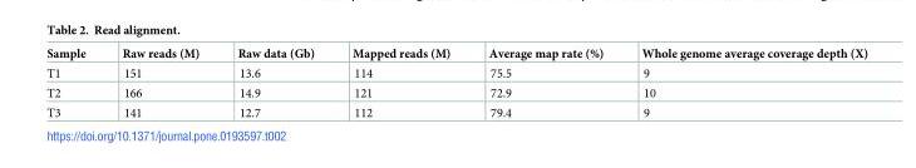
<table><thead><tr><td>Sample</td><td>Raw reads (M)</td><td>Raw data (Gb)</td><td>Mapped reads (M)</td><td>Average map rate (%)</td><td>Whole genome average coverage depth (X)</td></tr></thead><tbody><tr><td>T1</td><td>151</td><td>13.6</td><td>114</td><td>75.5</td><td>9</td></tr><tr><td>T2</td><td>166</td><td>14.9</td><td>121</td><td>72.9</td><td>10</td></tr><tr><td>T3</td><td>141</td><td>12.7</td><td>112</td><td>79.4</td><td>9</td></tr></tbody></table>